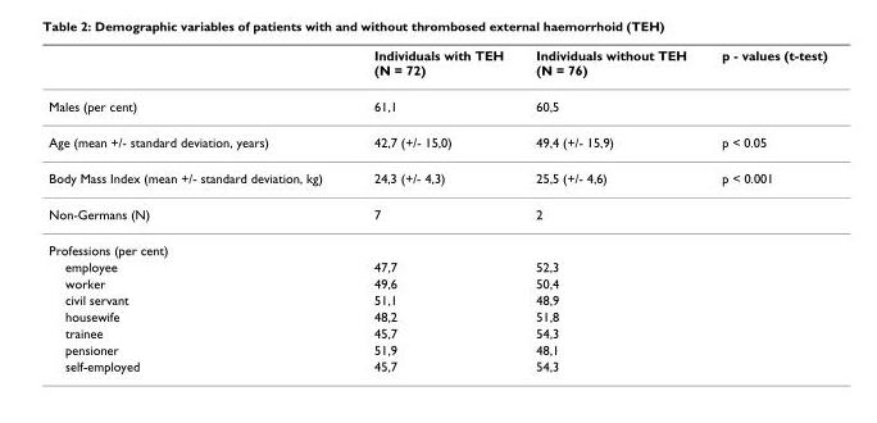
<table><thead><tr><td></td><td>Individuals with TEH (N = 72)</td><td>Individuals without TEH (N = 76)</td><td>p - values (t-test)</td></tr></thead><tbody><tr><td>Males (per cent)</td><td>61,1</td><td>60,5</td><td></td></tr><tr><td>Age (mean +/- standard deviation, years)</td><td>42,7 (+/- 15,0)</td><td>49,4 (+/- 15,9)</td><td>p &lt; 0.05</td></tr><tr><td>Body Mass Index (mean +/- standard deviation, kg)</td><td>24,3 (+/- 4,3)</td><td>25,5 (+/- 4,6)</td><td>p &lt; 0.001</td></tr><tr><td>Non-Germans (N)</td><td>7</td><td>2</td><td></td></tr><tr><td colspan="4">Professions (per cent)</td></tr><tr><td>employee</td><td>47,7</td><td>52,3</td><td></td></tr><tr><td>worker</td><td>49,6</td><td>50,4</td><td></td></tr><tr><td>civil servant</td><td>51,1</td><td>48,9</td><td></td></tr><tr><td>housewife</td><td>48,2</td><td>51,8</td><td></td></tr><tr><td>trainee</td><td>45,7</td><td>54,3</td><td></td></tr><tr><td>pensioner</td><td>51,9</td><td>48,1</td><td></td></tr><tr><td>self-employed</td><td>45,7</td><td>54,3</td><td></td></tr></tbody></table>